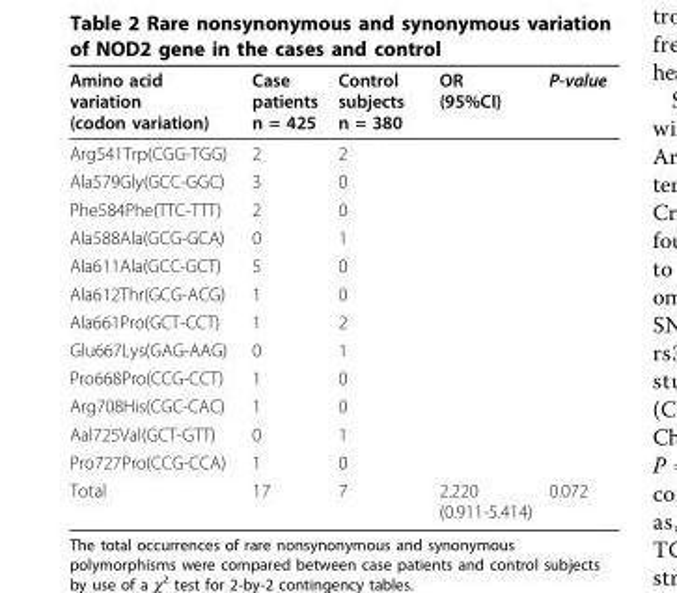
<table><tbody><tr><td>Amino acid variation (codon variation)</td><td>Case patients n = 425</td><td>Control subjects n = 380</td><td>OR (95%CI)</td><td>P-value</td></tr><tr><td>Arg541Trp(CGG-TGG)</td><td>2</td><td>2</td><td></td><td></td></tr><tr><td>Ala579Gly(GCC-GGC)</td><td>3</td><td>0</td><td></td><td></td></tr><tr><td>Phe584Phe(TTC-TTT)</td><td>2</td><td>0</td><td></td><td></td></tr><tr><td>Ala588Ala(GCG-GCA)</td><td>0</td><td>1</td><td></td><td></td></tr><tr><td>Ala611Ala(GCC-GCT)</td><td>5</td><td>0</td><td></td><td></td></tr><tr><td>Ala612Thr(GCG-ACG)</td><td>1</td><td>0</td><td></td><td></td></tr><tr><td>Ala661Pro(GCT-CCT)</td><td>1</td><td>2</td><td></td><td></td></tr><tr><td>Glu667Lys(GAG-AAG)</td><td>0</td><td>1</td><td></td><td></td></tr><tr><td>Pro668Pro(CCG-CCT)</td><td>1</td><td>0</td><td></td><td></td></tr><tr><td>Arg708His(CGC-CAC)</td><td>1</td><td>0</td><td></td><td></td></tr><tr><td>Aal725Val(GCT-GTT)</td><td>0</td><td>1</td><td></td><td></td></tr><tr><td>Pro727Pro(CCG-CCA)</td><td>1</td><td>0</td><td></td><td></td></tr><tr><td>Total</td><td>17</td><td>7</td><td>2.220 (0.911-5.414)</td><td>0.072</td></tr></tbody></table>